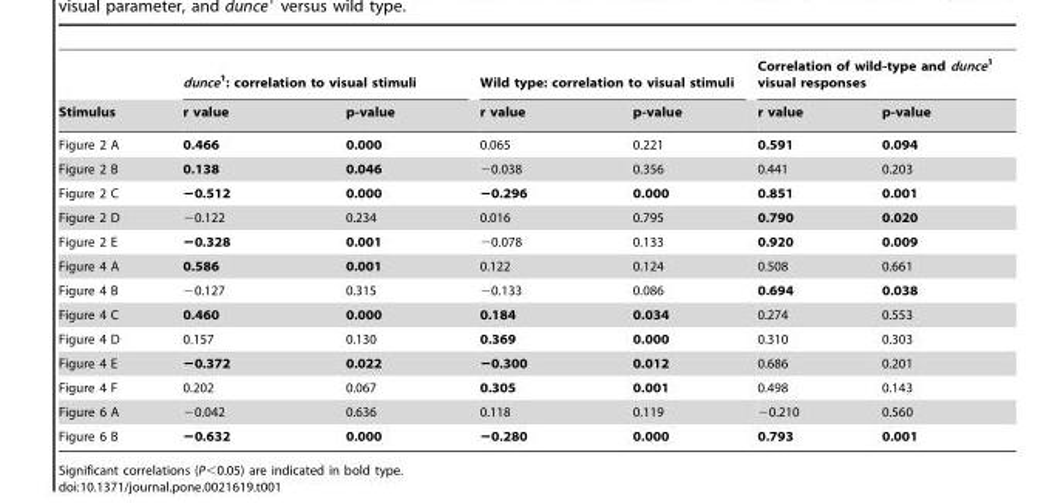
<table><thead><tr><td rowspan="2">Stimulus</td><td colspan="2">dunce<sup>1</sup>: correlation to visual stimuli</td><td colspan="2">Wild type: correlation to visual stimuli</td><td colspan="2">Correlation of wild-type and dunce<sup>1</sup> visual responses</td></tr><tr><td>r value</td><td>p-value</td><td>r value</td><td>p-value</td><td>r value</td><td>p-value</td></tr></thead><tbody><tr><td>Figure 2 A</td><td>0.466</td><td>0.000</td><td>0.065</td><td>0.221</td><td>0.591</td><td>0.094</td></tr><tr><td>Figure 2 B</td><td>0.138</td><td>0.046</td><td>−0.038</td><td>0.356</td><td>0.441</td><td>0.203</td></tr><tr><td>Figure 2 C</td><td>−0.512</td><td>0.000</td><td>−0.296</td><td>0.000</td><td>0.851</td><td>0.001</td></tr><tr><td>Figure 2 D</td><td>−0.122</td><td>0.234</td><td>0.016</td><td>0.795</td><td>0.790</td><td>0.020</td></tr><tr><td>Figure 2 E</td><td>−0.328</td><td>0.001</td><td>−0.078</td><td>0.133</td><td>0.920</td><td>0.009</td></tr><tr><td>Figure 4 A</td><td>0.586</td><td>0.001</td><td>0.122</td><td>0.124</td><td>0.508</td><td>0.661</td></tr><tr><td>Figure 4 B</td><td>−0.127</td><td>0.315</td><td>−0.133</td><td>0.086</td><td>0.694</td><td>0.038</td></tr><tr><td>Figure 4 C</td><td>0.460</td><td>0.000</td><td>0.184</td><td>0.034</td><td>0.274</td><td>0.553</td></tr><tr><td>Figure 4 D</td><td>0.157</td><td>0.130</td><td>0.369</td><td>0.000</td><td>0.310</td><td>0.303</td></tr><tr><td>Figure 4 E</td><td>−0.372</td><td>0.022</td><td>−0.300</td><td>0.012</td><td>0.686</td><td>0.201</td></tr><tr><td>Figure 4 F</td><td>0.202</td><td>0.067</td><td>0.305</td><td>0.001</td><td>0.498</td><td>0.143</td></tr><tr><td>Figure 6 A</td><td>−0.042</td><td>0.636</td><td>0.118</td><td>0.119</td><td>−0.210</td><td>0.560</td></tr><tr><td>Figure 6 B</td><td>−0.632</td><td>0.000</td><td>−0.280</td><td>0.000</td><td>0.793</td><td>0.001</td></tr></tbody></table>